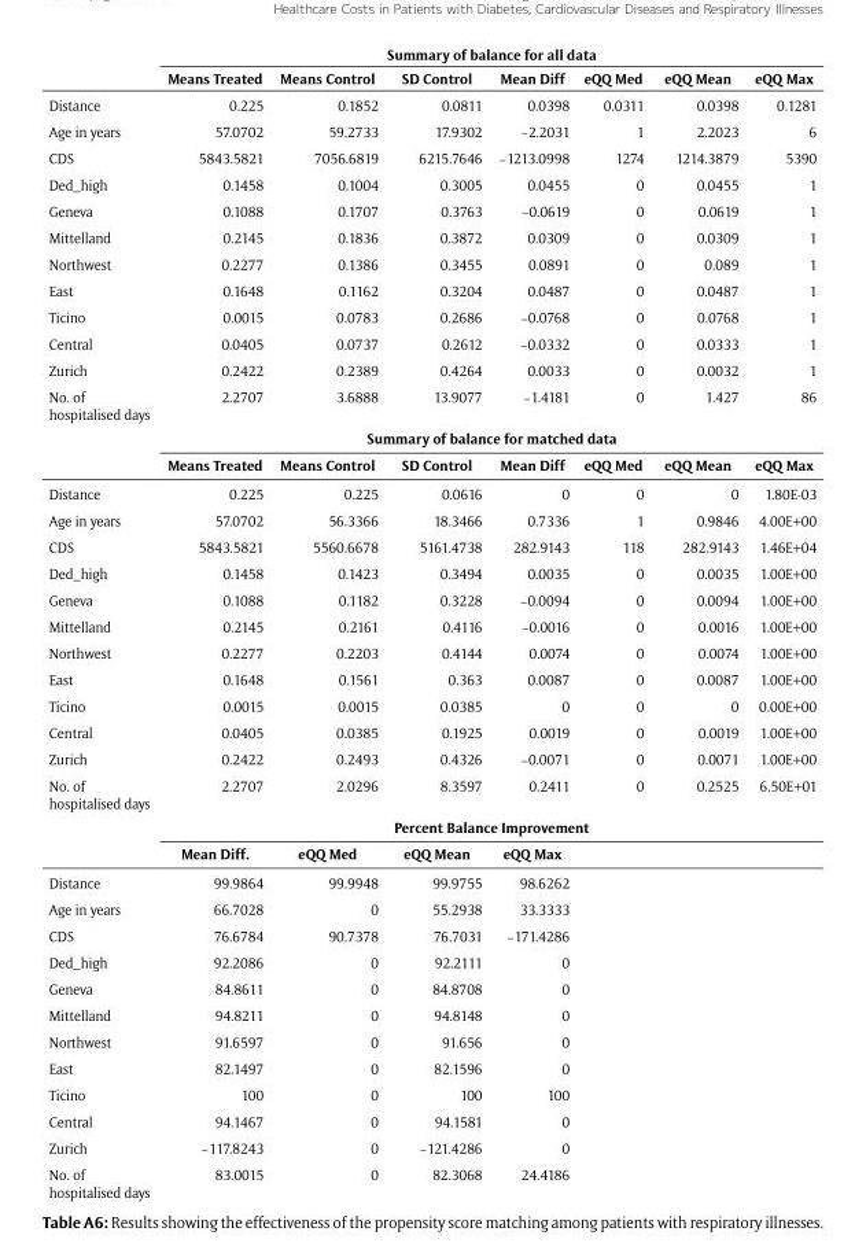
<table><thead><tr><td rowspan="2"></td><td colspan="7">Summary of balance for all data</td></tr><tr><td>Means Treated</td><td>Means Control</td><td>SD Control</td><td>Mean Diff</td><td>eQQ Med</td><td>eQQ Mean</td><td>eQQ Max</td></tr></thead><tbody><tr><td>Distance</td><td>0.225</td><td>0.1852</td><td>0.0811</td><td>0.0398</td><td>0.0311</td><td>0.0398</td><td>0.1281</td></tr><tr><td>Age in years</td><td>57.0702</td><td>59.2733</td><td>17.9302</td><td>−2.2031</td><td>1</td><td>2.2023</td><td>6</td></tr><tr><td>CDS</td><td>5843.5821</td><td>7056.6819</td><td>6215.7646</td><td>−1213.0998</td><td>1274</td><td>1214.3879</td><td>5390</td></tr><tr><td>Ded_high</td><td>0.1458</td><td>0.1004</td><td>0.3005</td><td>0.0455</td><td>0</td><td>0.0455</td><td>1</td></tr><tr><td>Geneva</td><td>0.1088</td><td>0.1707</td><td>0.3763</td><td>−0.0619</td><td>0</td><td>0.0619</td><td>1</td></tr><tr><td>Mittelland</td><td>0.2145</td><td>0.1836</td><td>0.3872</td><td>0.0309</td><td>0</td><td>0.0309</td><td>1</td></tr><tr><td>Northwest</td><td>0.2277</td><td>0.1386</td><td>0.3455</td><td>0.0891</td><td>0</td><td>0.089</td><td>1</td></tr><tr><td>East</td><td>0.1648</td><td>0.1162</td><td>0.3204</td><td>0.0487</td><td>0</td><td>0.0487</td><td>1</td></tr><tr><td>Ticino</td><td>0.0015</td><td>0.0783</td><td>0.2686</td><td>−0.0768</td><td>0</td><td>0.0768</td><td>1</td></tr><tr><td>Central</td><td>0.0405</td><td>0.0737</td><td>0.2612</td><td>−0.0332</td><td>0</td><td>0.0333</td><td>1</td></tr><tr><td>Zurich</td><td>0.2422</td><td>0.2389</td><td>0.4264</td><td>0.0033</td><td>0</td><td>0.0032</td><td>1</td></tr><tr><td rowspan="3">No. of hospitalised days</td><td>2.2707</td><td>3.6888</td><td>13.9077</td><td>−1.4181</td><td>0</td><td>1.427</td><td>86</td></tr><tr><td colspan="7">Summary of balance for matched data</td></tr><tr><td>Means Treated</td><td>Means Control</td><td>SD Control</td><td>Mean Diff</td><td>eQQ Med</td><td>eQQ Mean</td><td>eQQ Max</td></tr><tr><td>Distance</td><td>0.225</td><td>0.225</td><td>0.0616</td><td>0</td><td>0</td><td>0</td><td>1.80E-03</td></tr><tr><td>Age in years</td><td>57.0702</td><td>56.3366</td><td>18.3466</td><td>0.7336</td><td>1</td><td>0.9846</td><td>4.00E+00</td></tr><tr><td>CDS</td><td>5843.5821</td><td>5560.6678</td><td>5161.4738</td><td>282.9143</td><td>118</td><td>282.9143</td><td>1.46E+04</td></tr><tr><td>Ded_high</td><td>0.1458</td><td>0.1423</td><td>0.3494</td><td>0.0035</td><td>0</td><td>0.0035</td><td>1.00E+00</td></tr><tr><td>Geneva</td><td>0.1088</td><td>0.1182</td><td>0.3228</td><td>−0.0094</td><td>0</td><td>0.0094</td><td>1.00E+00</td></tr><tr><td>Mittelland</td><td>0.2145</td><td>0.2161</td><td>0.4116</td><td>−0.0016</td><td>0</td><td>0.0016</td><td>1.00E+00</td></tr><tr><td>Northwest</td><td>0.2277</td><td>0.2203</td><td>0.4144</td><td>0.0074</td><td>0</td><td>0.0074</td><td>1.00E+00</td></tr><tr><td>East</td><td>0.1648</td><td>0.1561</td><td>0.363</td><td>0.0087</td><td>0</td><td>0.0087</td><td>1.00E+00</td></tr><tr><td>Ticino</td><td>0.0015</td><td>0.0015</td><td>0.0385</td><td>0</td><td>0</td><td>0</td><td>0.00E+00</td></tr><tr><td>Central</td><td>0.0405</td><td>0.0385</td><td>0.1925</td><td>0.0019</td><td>0</td><td>0.0019</td><td>1.00E+00</td></tr><tr><td>Zurich</td><td>0.2422</td><td>0.2493</td><td>0.4326</td><td>−0.0071</td><td>0</td><td>0.0071</td><td>1.00E+00</td></tr><tr><td rowspan="3">No. of hospitalised days</td><td>2.2707</td><td>2.0296</td><td>8.3597</td><td>0.2411</td><td>0</td><td>0.2525</td><td>6.50E+01</td></tr><tr><td colspan="7">Percent Balance Improvement</td></tr><tr><td>Mean Diff.</td><td>eQQ Med</td><td>eQQ Mean</td><td>eQQ Max</td><td></td><td></td><td></td></tr><tr><td>Distance</td><td>99.9864</td><td>99.9948</td><td>99.9755</td><td>98.6262</td><td></td><td></td><td></td></tr><tr><td>Age in years</td><td>66.7028</td><td>0</td><td>55.2938</td><td>33.3333</td><td></td><td></td><td></td></tr><tr><td>CDS</td><td>76.6784</td><td>90.7378</td><td>76.7031</td><td>−171.4286</td><td></td><td></td><td></td></tr><tr><td>Ded_high</td><td>92.2086</td><td>0</td><td>92.2111</td><td>0</td><td></td><td></td><td></td></tr><tr><td>Geneva</td><td>84.8611</td><td>0</td><td>84.8708</td><td>0</td><td></td><td></td><td></td></tr><tr><td>Mittelland</td><td>94.8211</td><td>0</td><td>94.8148</td><td>0</td><td></td><td></td><td></td></tr><tr><td>Northwest</td><td>91.6597</td><td>0</td><td>91.656</td><td>0</td><td></td><td></td><td></td></tr><tr><td>East</td><td>82.1497</td><td>0</td><td>82.1596</td><td>0</td><td></td><td></td><td></td></tr><tr><td>Ticino</td><td>100</td><td>0</td><td>100</td><td>100</td><td></td><td></td><td></td></tr><tr><td>Central</td><td>94.1467</td><td>0</td><td>94.1581</td><td>0</td><td></td><td></td><td></td></tr><tr><td>Zurich</td><td>−117.8243</td><td>0</td><td>−121.4286</td><td>0</td><td></td><td></td><td></td></tr><tr><td>No. of hospitalised days</td><td>83.0015</td><td>0</td><td>82.3068</td><td>24.4186</td><td></td><td></td><td></td></tr></tbody></table>